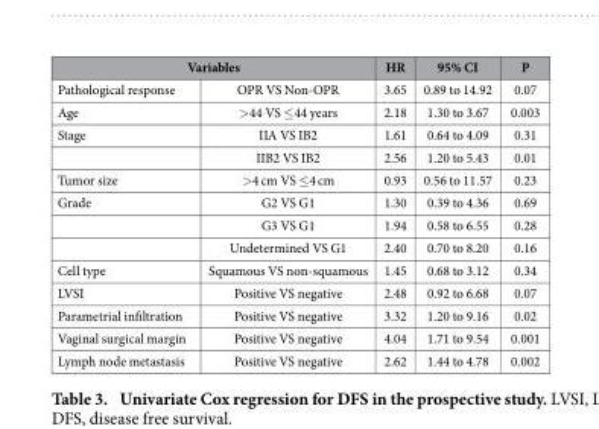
<table><thead><tr><td colspan="2">Variables</td><td rowspan="2">HR 3.65</td><td rowspan="2">95% CI 0.89 to 14.92</td><td rowspan="2">P 0.07</td></tr><tr><td>Pathological response</td><td>OPR VS Non-OPR</td></tr></thead><tbody><tr><td>Age</td><td>&gt; 44 VS ≤ 44 years</td><td>2.18</td><td>1.30 to 3.67</td><td>0.003</td></tr><tr><td rowspan="2">Stage</td><td>IIA VS IB2</td><td>1.61</td><td>0.64 to 4.09</td><td>0.31</td></tr><tr><td>IIB2 VS IB2</td><td>2.56</td><td>1.20 to 5.43</td><td>0.01</td></tr><tr><td>Tumor size</td><td>&gt; 4 cm VS ≤ 4 cm</td><td>0.93</td><td>0.56 to 11.57</td><td>0.23</td></tr><tr><td rowspan="3">Grade</td><td>G2 VS G1</td><td>1.30</td><td>0.39 to 4.36</td><td>0.69</td></tr><tr><td>G3 VS G1</td><td>1.94</td><td>0.58 to 6.55</td><td>0.28</td></tr><tr><td>Undetermined VS G1</td><td>2.40</td><td>0.70 to 8.20</td><td>0.16</td></tr><tr><td>Cell type</td><td>Squamous VS non-squamous</td><td>1.45</td><td>0.68 to 3.12</td><td>0.34</td></tr><tr><td>LVSI</td><td>Positive VS negative</td><td>2.48</td><td>0.92 to 6.68</td><td>0.07</td></tr><tr><td>Parametrial infiltration</td><td>Positive VS negative</td><td>3.32</td><td>1.20 to 9.16</td><td>0.02</td></tr><tr><td>Vaginal surgical margin</td><td>Positive VS negative</td><td>4.04</td><td>1.71 to 9.54</td><td>0.001</td></tr><tr><td>Lymph node metastasis</td><td>Positive VS negative</td><td>2.62</td><td>1.44 to 4.78</td><td>0.002</td></tr></tbody></table>